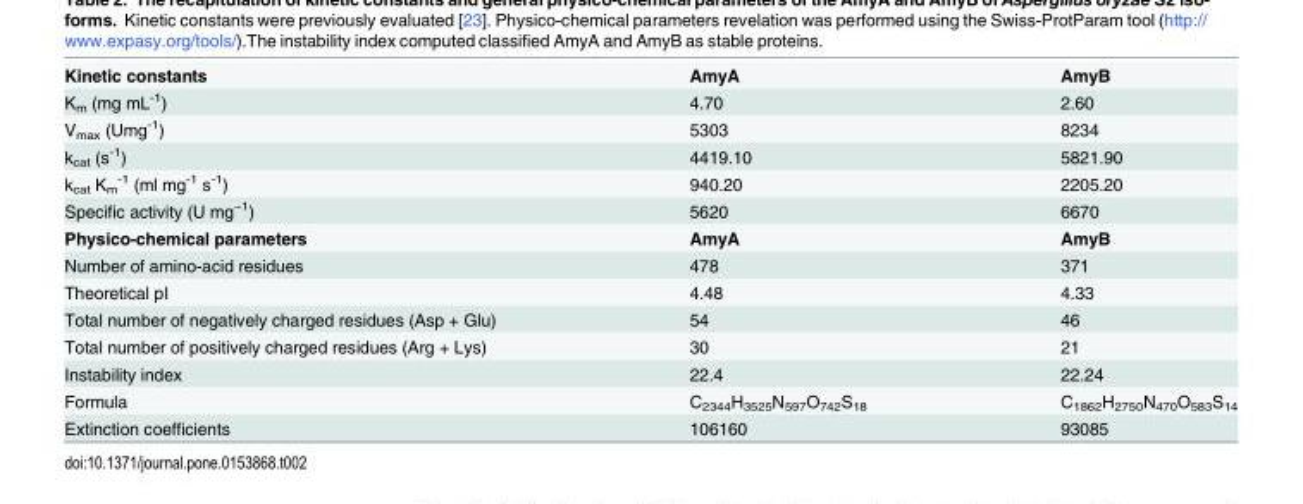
<table><tbody><tr><td>Kinetic constants</td><td>AmyA</td><td>AmyB</td></tr><tr><td>K<sub>m</sub> (mg mL<sup>-1</sup>)</td><td>4.70</td><td>2.60</td></tr><tr><td>V<sub>max</sub> (Umg<sup>-1</sup>)</td><td>5303</td><td>8234</td></tr><tr><td>k<sub>cat</sub> (s<sup>-1</sup>)</td><td>4419.10</td><td>5821.90</td></tr><tr><td>k<sub>cat</sub> K<sub>m</sub> <sup>-1</sup> (ml mg<sup>-1</sup> s<sup>-1</sup>)</td><td>940.20</td><td>2205.20</td></tr><tr><td>Specific activity (U mg<sup>−1</sup>)</td><td>5620</td><td>6670</td></tr><tr><td>Physico-chemical parameters</td><td>AmyA</td><td>AmyB</td></tr><tr><td>Number of amino-acid residues</td><td>478</td><td>371</td></tr><tr><td>Theoretical pI</td><td>4.48</td><td>4.33</td></tr><tr><td>Total number of negatively charged residues (Asp + Glu)</td><td>54</td><td>46</td></tr><tr><td>Total number of positively charged residues (Arg + Lys)</td><td>30</td><td>21</td></tr><tr><td>Instability index</td><td>22.4</td><td>22.24</td></tr><tr><td>Formula</td><td>C<sub>2344</sub>H<sub>3525</sub>N<sub>597</sub>O<sub>742</sub>S<sub>18</sub></td><td>C<sub>1862</sub>H<sub>2750</sub>N<sub>470</sub>O<sub>583</sub>S<sub>14</sub></td></tr><tr><td>Extinction coefficients</td><td>106160</td><td>93085</td></tr></tbody></table>